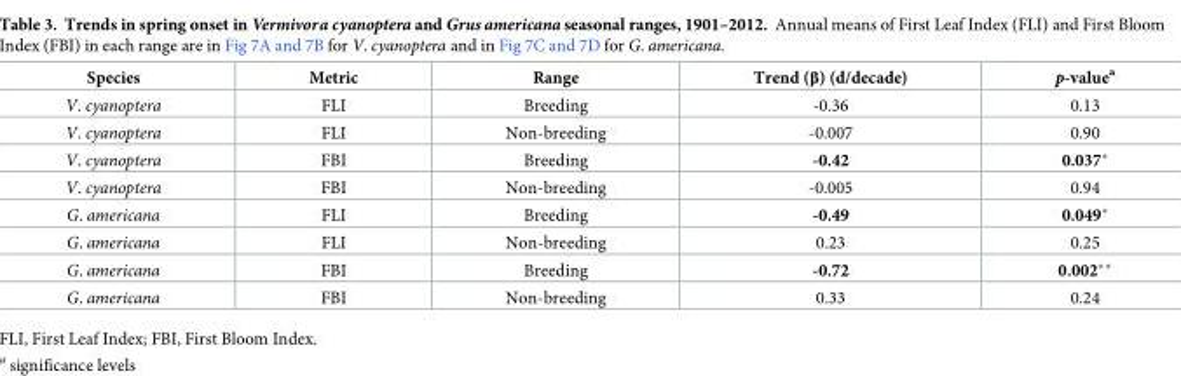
<table><thead><tr><td>Species</td><td>Metric</td><td>Range</td><td>Trend (β) (d/decade)</td><td>p-value<sup>a</sup></td></tr></thead><tbody><tr><td>V. cyanoptera</td><td>FLI</td><td>Breeding</td><td>-0.36</td><td>0.13</td></tr><tr><td>V. cyanoptera</td><td>FLI</td><td>Non-breeding</td><td>-0.007</td><td>0.90</td></tr><tr><td>V. cyanoptera</td><td>FBI</td><td>Breeding</td><td>-0.42</td><td>0.037*</td></tr><tr><td>V. cyanoptera</td><td>FBI</td><td>Non-breeding</td><td>-0.005</td><td>0.94</td></tr><tr><td>G. americana</td><td>FLI</td><td>Breeding</td><td>-0.49</td><td>0.049*</td></tr><tr><td>G. americana</td><td>FLI</td><td>Non-breeding</td><td>0.23</td><td>0.25</td></tr><tr><td>G. americana</td><td>FBI</td><td>Breeding</td><td>-0.72</td><td>0.002**</td></tr><tr><td>G. americana</td><td>FBI</td><td>Non-breeding</td><td>0.33</td><td>0.24</td></tr></tbody></table>